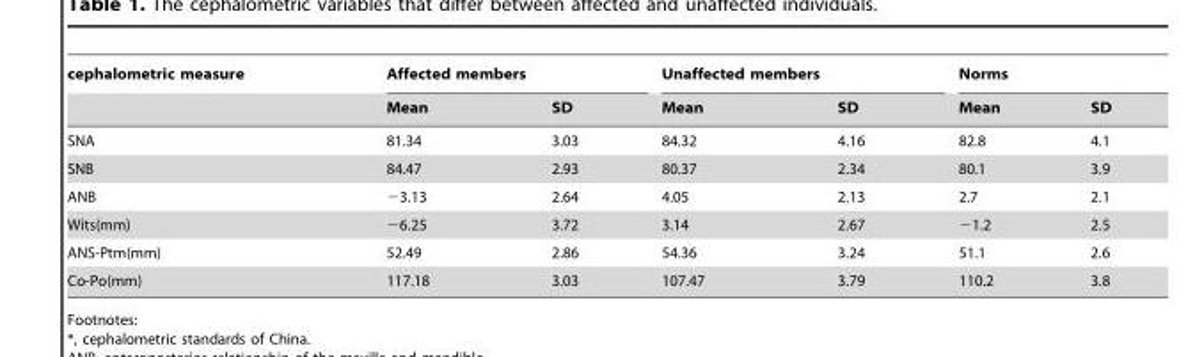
<table><thead><tr><td rowspan="2">cephalometric measure</td><td colspan="2">Affected members</td><td colspan="2">Unaffected members</td><td colspan="2">Norms</td></tr><tr><td>Mean</td><td>SD</td><td>Mean</td><td>SD</td><td>Mean</td><td>SD</td></tr></thead><tbody><tr><td>SNA</td><td>81.34</td><td>3.03</td><td>84.32</td><td>4.16</td><td>82.8</td><td>4.1</td></tr><tr><td>SNB</td><td>84.47</td><td>2.93</td><td>80.37</td><td>2.34</td><td>80.1</td><td>3.9</td></tr><tr><td>ANB</td><td>−3.13</td><td>2.64</td><td>4.05</td><td>2.13</td><td>2.7</td><td>2.1</td></tr><tr><td>Wits(mm)</td><td>−6.25</td><td>3.72</td><td>3.14</td><td>2.67</td><td>−1.2</td><td>2.5</td></tr><tr><td>ANS-Ptm(mm)</td><td>52.49</td><td>2.86</td><td>54.36</td><td>3.24</td><td>51.1</td><td>2.6</td></tr><tr><td>Co-Po(mm)</td><td>117.18</td><td>3.03</td><td>107.47</td><td>3.79</td><td>110.2</td><td>3.8</td></tr></tbody></table>